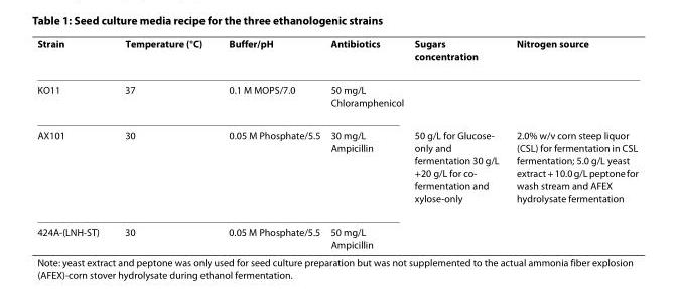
<table><thead><tr><td>Strain</td><td>Temperature (°C)</td><td>Buffer/pH</td><td>Antibiotics</td><td>Sugars concentration</td><td>Nitrogen source</td></tr></thead><tbody><tr><td>KO11</td><td>37</td><td>0.1 M MOPS/7.0</td><td>50 mg/L Chloramphenicol</td><td></td><td></td></tr><tr><td>AX101</td><td>30</td><td>0.05 M Phosphate/5.5</td><td>30 mg/L Ampicillin</td><td>50 g/L for Glucose- only and fermentation 30 g/L +20 g/L for co- fermentation and xylose-only</td><td>2.0% w/v corn steep liquor (CSL) for fermentation in CSL fermentation; 5.0 g/L yeast extract + 10.0 g/L peptone for wash stream and AFEX hydrolysate fermentation</td></tr><tr><td>424A-(LNH-ST)</td><td>30</td><td>0.05 M Phosphate/5.5</td><td>50 mg/L Ampicillin</td><td></td><td></td></tr></tbody></table>